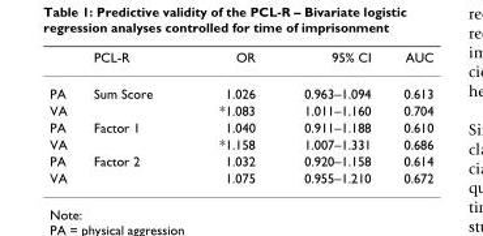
<table><thead><tr><td></td><td>PCL-R</td><td>OR</td><td>95% CI</td><td>AUC</td></tr></thead><tbody><tr><td>PA</td><td>Sum Score</td><td>1.026</td><td>0.963–1.094</td><td>0.613</td></tr><tr><td>VA</td><td></td><td>*1.083</td><td>1.011–1.160</td><td>0.704</td></tr><tr><td>PA</td><td>Factor 1</td><td>1.040</td><td>0.911–1.188</td><td>0.610</td></tr><tr><td>VA</td><td></td><td>*1.158</td><td>1.007–1.331</td><td>0.686</td></tr><tr><td>PA</td><td>Factor 2</td><td>1.032</td><td>0.920–1.158</td><td>0.614</td></tr><tr><td>VA</td><td></td><td>1.075</td><td>0.955–1.210</td><td>0.672</td></tr></tbody></table>